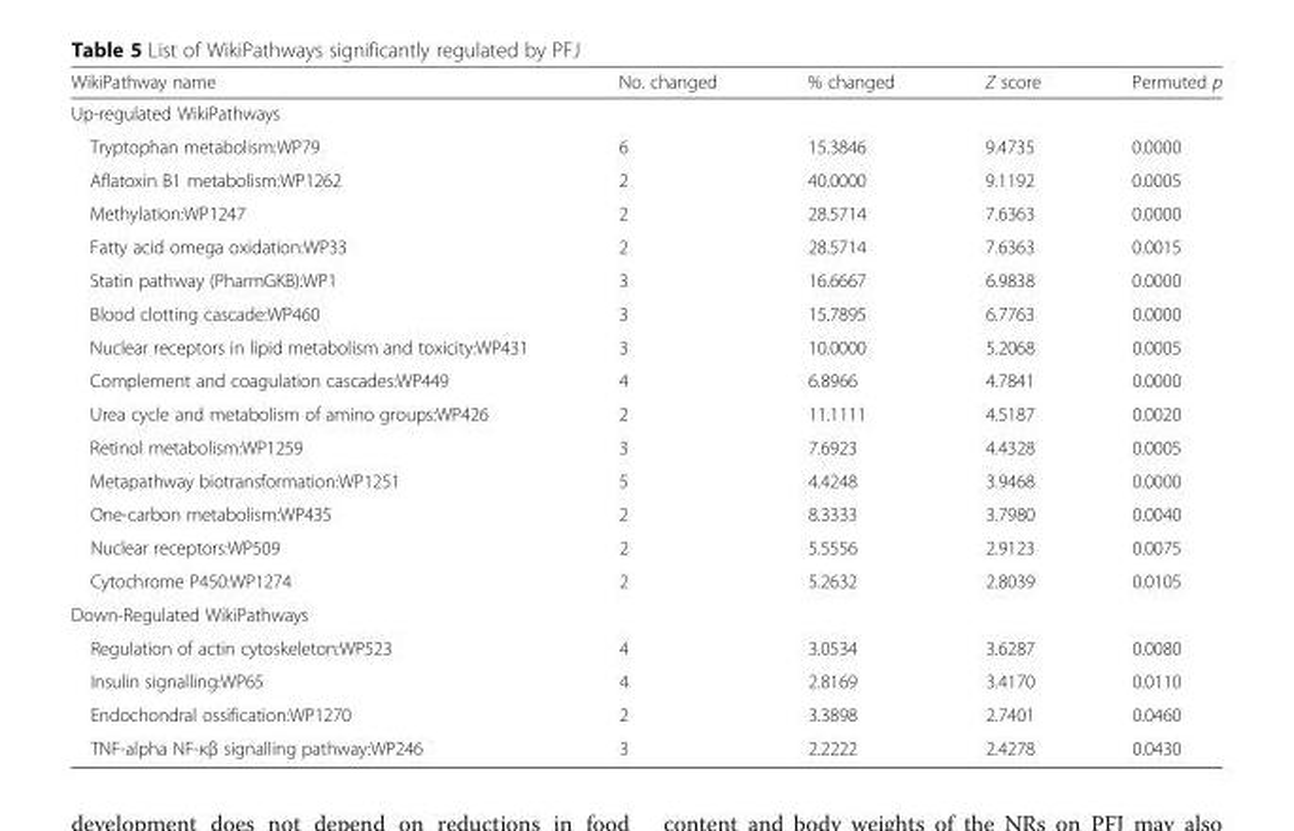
<table><thead><tr><td>WikiPathway name</td><td>No. changed</td><td>% changed</td><td>Z score</td><td>Permuted p</td></tr></thead><tbody><tr><td colspan="5">Up-regulated WikiPathways</td></tr><tr><td>Tryptophan metabolism:WP79</td><td>6</td><td>15.3846</td><td>9.4735</td><td>0.0000</td></tr><tr><td>Aflatoxin B1 metabolism:WP1262</td><td>2</td><td>40.0000</td><td>9.1192</td><td>0.0005</td></tr><tr><td>Methylation:WP1247</td><td>2</td><td>28.5714</td><td>7.6363</td><td>0.0000</td></tr><tr><td>Fatty acid omega oxidation:WP33</td><td>2</td><td>28.5714</td><td>7.6363</td><td>0.0015</td></tr><tr><td>Statin pathway (PharmGKB):WP1</td><td>3</td><td>16.6667</td><td>6.9838</td><td>0.0000</td></tr><tr><td>Blood clotting cascade:WP460</td><td>3</td><td>15.7895</td><td>6.7763</td><td>0.0000</td></tr><tr><td>Nuclear receptors in lipid metabolism and toxicity:WP431</td><td>3</td><td>10.0000</td><td>5.2068</td><td>0.0005</td></tr><tr><td>Complement and coagulation cascades:WP449</td><td>4</td><td>6.8966</td><td>4.7841</td><td>0.0000</td></tr><tr><td>Urea cycle and metabolism of amino groups:WP426</td><td>2</td><td>11.1111</td><td>4.5187</td><td>0.0020</td></tr><tr><td>Retinol metabolism:WP1259</td><td>3</td><td>7.6923</td><td>4.4328</td><td>0.0005</td></tr><tr><td>Metapathway biotransformation:WP1251</td><td>5</td><td>4.4248</td><td>3.9468</td><td>0.0000</td></tr><tr><td>One-carbon metabolism:WP435</td><td>2</td><td>8.3333</td><td>3.7980</td><td>0.0040</td></tr><tr><td>Nuclear receptors:WP509</td><td>2</td><td>5.5556</td><td>2.9123</td><td>0.0075</td></tr><tr><td>Cytochrome P450:WP1274</td><td>2</td><td>5.2632</td><td>2.8039</td><td>0.0105</td></tr><tr><td colspan="5">Down-Regulated WikiPathways</td></tr><tr><td>Regulation of actin cytoskeleton:WP523</td><td>4</td><td>3.0534</td><td>3.6287</td><td>0.0080</td></tr><tr><td>Insulin signalling:WP65</td><td>4</td><td>2.8169</td><td>3.4170</td><td>0.0110</td></tr><tr><td>Endochondral ossification:WP1270</td><td>2</td><td>3.3898</td><td>2.7401</td><td>0.0460</td></tr><tr><td>TNF-alpha NF-κβ signalling pathway:WP246</td><td>3</td><td>2.2222</td><td>2.4278</td><td>0.0430</td></tr></tbody></table>